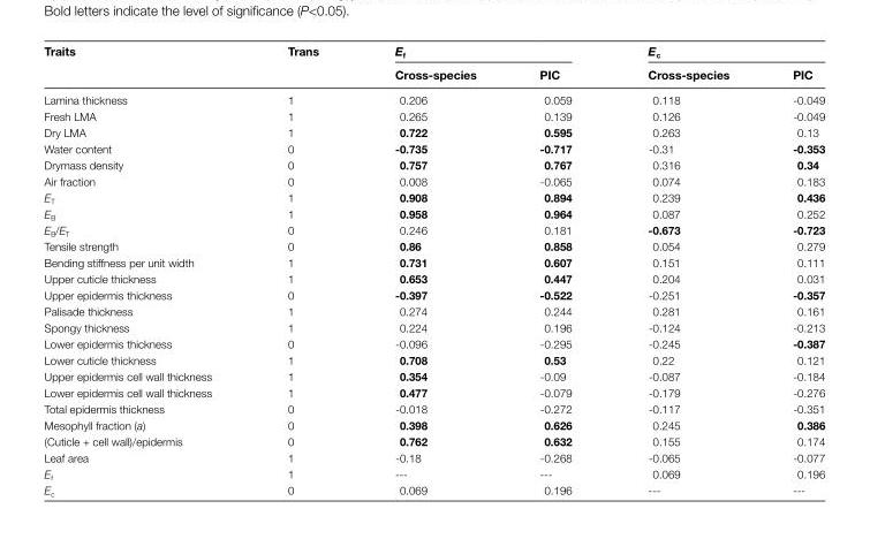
<table><thead><tr><td rowspan="2">Traits</td><td rowspan="2">Trans</td><td colspan="2">E<sub>f</sub></td><td colspan="2">E<sub>c</sub></td></tr><tr><td>Cross-species</td><td>PIC</td><td>Cross-species</td><td>PIC</td></tr></thead><tbody><tr><td>Lamina thickness</td><td>1</td><td>0.206</td><td>0.059</td><td>0.118</td><td>-0.049</td></tr><tr><td>Fresh LMA</td><td>1</td><td>0.265</td><td>0.139</td><td>0.126</td><td>-0.049</td></tr><tr><td>Dry LMA</td><td>1</td><td>0.722</td><td>0.595</td><td>0.263</td><td>0.13</td></tr><tr><td>Water content</td><td>0</td><td>-0.735</td><td>-0.717</td><td>-0.31</td><td>-0.353</td></tr><tr><td>Drymass density</td><td>0</td><td>0.757</td><td>0.767</td><td>0.316</td><td>0.34</td></tr><tr><td>Air fraction</td><td>0</td><td>0.008</td><td>-0.065</td><td>0.074</td><td>0.183</td></tr><tr><td>E<sub>T</sub></td><td>1</td><td>0.908</td><td>0.894</td><td>0.239</td><td>0.436</td></tr><tr><td>E<sub>B</sub></td><td>1</td><td>0.958</td><td>0.964</td><td>0.087</td><td>0.252</td></tr><tr><td>E<sub>B</sub>/E<sub>T</sub></td><td>0</td><td>0.246</td><td>0.181</td><td>-0.673</td><td>-0.723</td></tr><tr><td>Tensile strength</td><td>0</td><td>0.86</td><td>0.858</td><td>0.054</td><td>0.279</td></tr><tr><td>Bending stiffness per unit width</td><td>1</td><td>0.731</td><td>0.607</td><td>0.151</td><td>0.111</td></tr><tr><td>Upper cuticle thickness</td><td>1</td><td>0.653</td><td>0.447</td><td>0.204</td><td>0.031</td></tr><tr><td>Upper epidermis thickness</td><td>0</td><td>-0.397</td><td>-0.522</td><td>-0.251</td><td>-0.357</td></tr><tr><td>Palisade thickness</td><td>1</td><td>0.274</td><td>0.244</td><td>0.281</td><td>0.161</td></tr><tr><td>Spongy thickness</td><td>1</td><td>0.224</td><td>0.196</td><td>-0.124</td><td>-0.213</td></tr><tr><td>Lower epidermis thickness</td><td>0</td><td>-0.096</td><td>-0.295</td><td>-0.245</td><td>-0.387</td></tr><tr><td>Lower cuticle thickness</td><td>1</td><td>0.708</td><td>0.53</td><td>0.22</td><td>0.121</td></tr><tr><td>Upper epidermis cell wall thickness</td><td>1</td><td>0.354</td><td>-0.09</td><td>-0.087</td><td>-0.184</td></tr><tr><td>Lower epidermis cell wall thickness</td><td>1</td><td>0.477</td><td>-0.079</td><td>-0.179</td><td>-0.276</td></tr><tr><td>Total epidermis thickness</td><td>0</td><td>-0.018</td><td>-0.272</td><td>-0.117</td><td>-0.351</td></tr><tr><td>Mesophyll fraction (a)</td><td>0</td><td>0.398</td><td>0.626</td><td>0.245</td><td>0.386</td></tr><tr><td>(Cuticle + cell wall)/epidermis</td><td>0</td><td>0.762</td><td>0.632</td><td>0.155</td><td>0.174</td></tr><tr><td>Leaf area</td><td>1</td><td>-0.18</td><td>-0.268</td><td>-0.065</td><td>-0.077</td></tr><tr><td>E<sub>f</sub></td><td>1</td><td>---</td><td>---</td><td>0.069</td><td>0.196</td></tr><tr><td>E<sub>c</sub></td><td>0</td><td>0.069</td><td>0.196</td><td>---</td><td>---</td></tr></tbody></table>